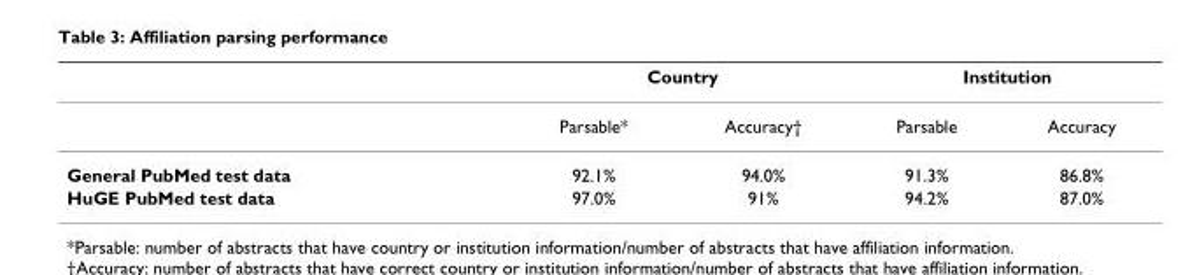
<table><thead><tr><td rowspan="2"></td><td colspan="2">Country</td><td colspan="2">Institution</td></tr><tr><td>Parsable*</td><td>Accuracy†</td><td>Parsable</td><td>Accuracy</td></tr></thead><tbody><tr><td>General PubMed test data</td><td>92.1%</td><td>94.0%</td><td>91.3%</td><td>86.8%</td></tr><tr><td>HuGE PubMed test data</td><td>97.0%</td><td>91%</td><td>94.2%</td><td>87.0%</td></tr></tbody></table>